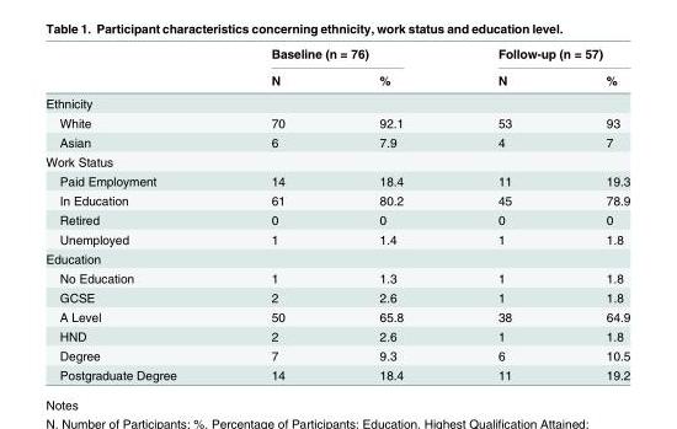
<table><thead><tr><td rowspan="2"></td><td colspan="2">Baseline (n = 76)</td><td colspan="2">Follow-up (n = 57)</td></tr><tr><td>N</td><td>%</td><td>N</td><td>%</td></tr></thead><tbody><tr><td colspan="5">Ethnicity</td></tr><tr><td>White</td><td>70</td><td>92.1</td><td>53</td><td>93</td></tr><tr><td>Asian</td><td>6</td><td>7.9</td><td>4</td><td>7</td></tr><tr><td colspan="5">Work Status</td></tr><tr><td>Paid Employment</td><td>14</td><td>18.4</td><td>11</td><td>19.3</td></tr><tr><td>In Education</td><td>61</td><td>80.2</td><td>45</td><td>78.9</td></tr><tr><td>Retired</td><td>0</td><td>0</td><td>0</td><td>0</td></tr><tr><td>Unemployed</td><td>1</td><td>1.4</td><td>1</td><td>1.8</td></tr><tr><td colspan="5">Education</td></tr><tr><td>No Education</td><td>1</td><td>1.3</td><td>1</td><td>1.8</td></tr><tr><td>GCSE</td><td>2</td><td>2.6</td><td>1</td><td>1.8</td></tr><tr><td>A Level</td><td>50</td><td>65.8</td><td>38</td><td>64.9</td></tr><tr><td>HND</td><td>2</td><td>2.6</td><td>1</td><td>1.8</td></tr><tr><td>Degree</td><td>7</td><td>9.3</td><td>6</td><td>10.5</td></tr><tr><td>Postgraduate Degree</td><td>14</td><td>18.4</td><td>11</td><td>19.2</td></tr></tbody></table>